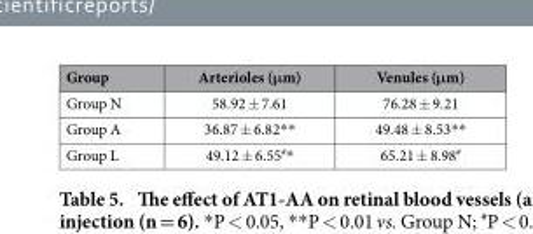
<table><thead><tr><td>Group</td><td>Arterioles (μm)</td><td>Venules (μm)</td></tr></thead><tbody><tr><td>Group N</td><td>58.92 ± 7.61</td><td>76.28 ± 9.21</td></tr><tr><td>Group A</td><td>36.87 ± 6.82**</td><td>49.48 ± 8.53**</td></tr><tr><td>Group L</td><td>49.12 ± 6.55<sup>#</sup>*</td><td>65.21 ± 8.98#</td></tr></tbody></table>